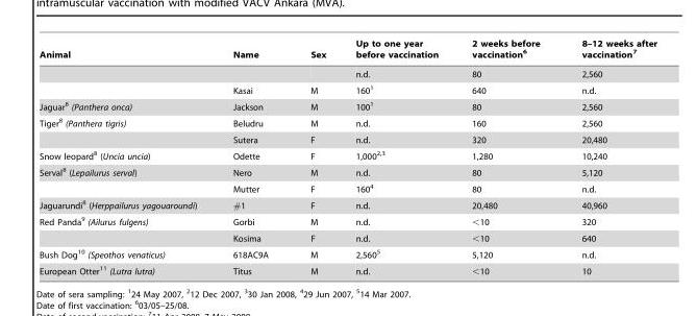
<table><thead><tr><td>Animal</td><td>Name</td><td>Sex</td><td>Up to one year before vaccination</td><td>2 weeks before vaccination<sup>6</sup></td><td>8–12 weeks after vaccination<sup>7</sup></td></tr></thead><tbody><tr><td></td><td></td><td></td><td>n.d.</td><td>80</td><td>2,560</td></tr><tr><td></td><td>Kasai</td><td>M</td><td>160<sup>1</sup></td><td>640</td><td>n.d.</td></tr><tr><td>Jaguar<sup>8</sup> (Panthera onca)</td><td>Jackson</td><td>M</td><td>100<sup>1</sup></td><td>80</td><td>2,560</td></tr><tr><td rowspan="2">Tiger<sup>8</sup> (Panthera tigris)</td><td>Beludru</td><td>M</td><td>n.d.</td><td>160</td><td>2,560</td></tr><tr><td>Sutera</td><td>F</td><td>n.d.</td><td>320</td><td>20,480</td></tr><tr><td>Snow leopard<sup>8</sup> (Uncia uncia)</td><td>Odette</td><td>F</td><td>1,000<sup>2,3</sup></td><td>1,280</td><td>10,240</td></tr><tr><td rowspan="2">Serval<sup>8</sup> (Lepailurus serval)</td><td>Nero</td><td>M</td><td>n.d.</td><td>80</td><td>5,120</td></tr><tr><td>Mutter</td><td>F</td><td>160<sup>4</sup></td><td>80</td><td>n.d.</td></tr><tr><td>Jaguarundi<sup>8</sup> (Herppailurus yagouaroundi)</td><td>#1</td><td>F</td><td>n.d.</td><td>20,480</td><td>40,960</td></tr><tr><td rowspan="2">Red Panda<sup>9</sup> (Ailurus fulgens)</td><td>Gorbi</td><td>M</td><td>n.d.</td><td>&lt;10</td><td>320</td></tr><tr><td>Kosima</td><td>F</td><td>n.d.</td><td>&lt;10</td><td>640</td></tr><tr><td>Bush Dog<sup>10</sup> (Speothos venaticus)</td><td>618AC9A</td><td>M</td><td>2,560<sup>5</sup></td><td>5,120</td><td>n.d.</td></tr><tr><td>European Otter<sup>11</sup> (Lutra lutra)</td><td>Titus</td><td>M</td><td>n.d.</td><td>&lt;10</td><td>10</td></tr></tbody></table>